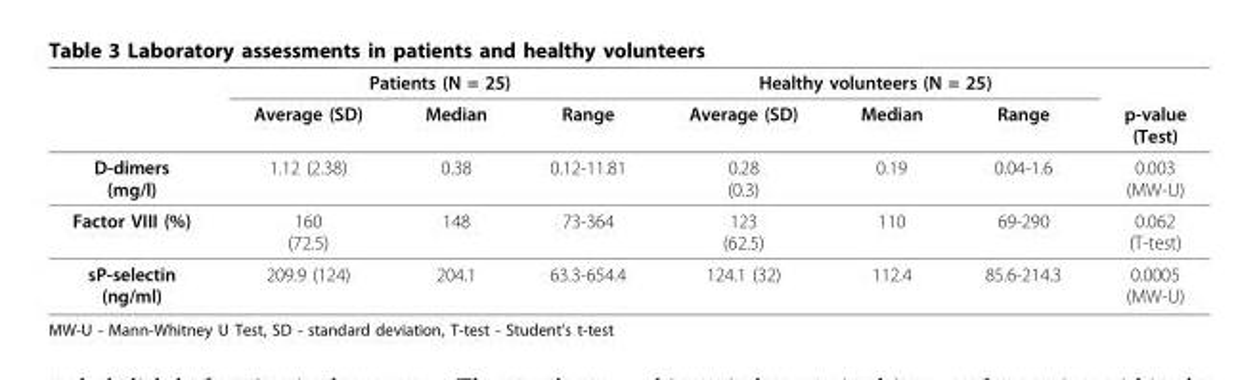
<table><thead><tr><td rowspan="2"></td><td colspan="3">Patients (N = 25)</td><td colspan="3">Healthy volunteers (N = 25)</td><td rowspan="2">p-value (Test)</td></tr><tr><td>Average (SD)</td><td>Median</td><td>Range</td><td>Average (SD)</td><td>Median</td><td>Range</td></tr></thead><tbody><tr><td>D-dimers (mg/l)</td><td>1.12 (2.38)</td><td>0.38</td><td>0.12-11.81</td><td>0.28 (0.3)</td><td>0.19</td><td>0.04-1.6</td><td>0.003 (MW-U)</td></tr><tr><td>Factor VIII (%)</td><td>160 (72.5)</td><td>148</td><td>73-364</td><td>123 (62.5)</td><td>110</td><td>69-290</td><td>0.062 (T-test)</td></tr><tr><td>sP-selectin (ng/ml)</td><td>209.9 (124)</td><td>204.1</td><td>63.3-654.4</td><td>124.1 (32)</td><td>112.4</td><td>85.6-214.3</td><td>0.0005 (MW-U)</td></tr></tbody></table>